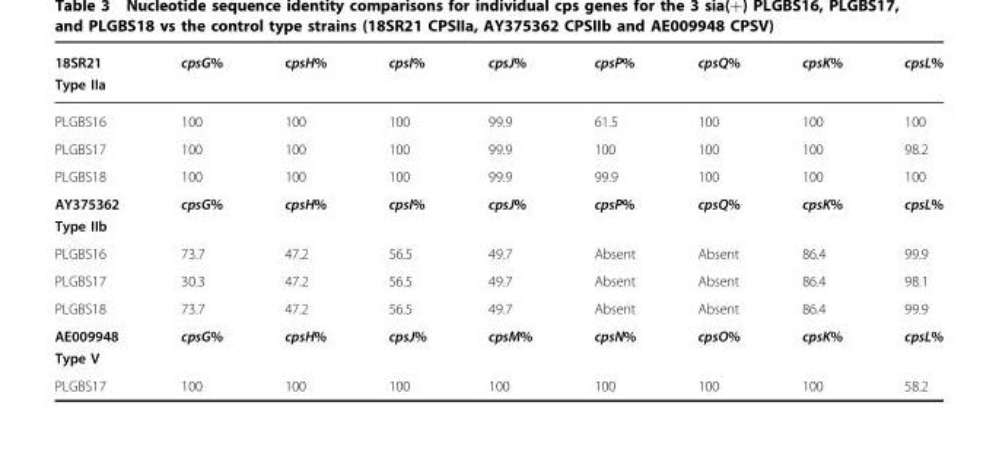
<table><thead><tr><td>18SR21 Type IIa</td><td>cpsG%</td><td>cpsH%</td><td>cpsI%</td><td>cpsJ%</td><td>cpsP%</td><td>cpsQ%</td><td>cpsK%</td><td>cpsL%</td></tr></thead><tbody><tr><td>PLGBS16</td><td>100</td><td>100</td><td>100</td><td>99.9</td><td>61.5</td><td>100</td><td>100</td><td>100</td></tr><tr><td>PLGBS17</td><td>100</td><td>100</td><td>100</td><td>99.9</td><td>100</td><td>100</td><td>100</td><td>98.2</td></tr><tr><td>PLGBS18</td><td>100</td><td>100</td><td>100</td><td>99.9</td><td>99.9</td><td>100</td><td>100</td><td>100</td></tr><tr><td>AY375362 Type IIb</td><td>cpsG%</td><td>cpsH%</td><td>cpsI%</td><td>cpsJ%</td><td>cpsP%</td><td>cpsQ%</td><td>cpsK%</td><td>cpsL%</td></tr><tr><td>PLGBS16</td><td>73.7</td><td>47.2</td><td>56.5</td><td>49.7</td><td>Absent</td><td>Absent</td><td>86.4</td><td>99.9</td></tr><tr><td>PLGBS17</td><td>30.3</td><td>47.2</td><td>56.5</td><td>49.7</td><td>Absent</td><td>Absent</td><td>86.4</td><td>98.1</td></tr><tr><td>PLGBS18</td><td>73.7</td><td>47.2</td><td>56.5</td><td>49.7</td><td>Absent</td><td>Absent</td><td>86.4</td><td>99.9</td></tr><tr><td>AE009948 Type V</td><td>cpsG%</td><td>cpsH%</td><td>cpsJ%</td><td>cpsM%</td><td>cpsN%</td><td>cpsO%</td><td>cpsK%</td><td>cpsL%</td></tr><tr><td>PLGBS17</td><td>100</td><td>100</td><td>100</td><td>100</td><td>100</td><td>100</td><td>100</td><td>58.2</td></tr></tbody></table>